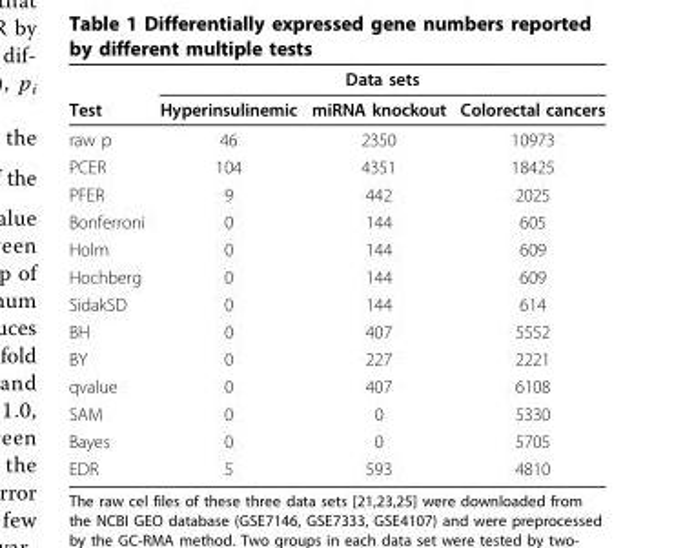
<table><thead><tr><td rowspan="2">Test</td><td colspan="3">Data sets</td></tr><tr><td>Hyperinsulinemic</td><td>miRNA knockout</td><td>Colorectal cancers</td></tr></thead><tbody><tr><td>raw p</td><td>46</td><td>2350</td><td>10973</td></tr><tr><td>PCER</td><td>104</td><td>4351</td><td>18425</td></tr><tr><td>PFER</td><td>9</td><td>442</td><td>2025</td></tr><tr><td>Bonferroni</td><td>0</td><td>144</td><td>605</td></tr><tr><td>Holm</td><td>0</td><td>144</td><td>609</td></tr><tr><td>Hochberg</td><td>0</td><td>144</td><td>609</td></tr><tr><td>SidakSD</td><td>0</td><td>144</td><td>614</td></tr><tr><td>BH</td><td>0</td><td>407</td><td>5552</td></tr><tr><td>BY</td><td>0</td><td>227</td><td>2221</td></tr><tr><td>qvalue</td><td>0</td><td>407</td><td>6108</td></tr><tr><td>SAM</td><td>0</td><td>0</td><td>5330</td></tr><tr><td>Bayes</td><td>0</td><td>0</td><td>5705</td></tr><tr><td>EDR</td><td>5</td><td>593</td><td>4810</td></tr></tbody></table>